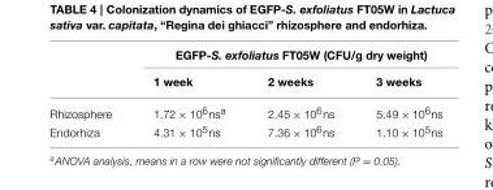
<table><thead><tr><td rowspan="2"></td><td colspan="3">EGFP-S. exfoliatus FT05W (CFU/g dry weight)</td></tr><tr><td>1 week</td><td>2 weeks</td><td>3 weeks</td></tr></thead><tbody><tr><td>Rhizosphere</td><td>1.72 × 10<sup>6</sup>ns<sup>a</sup></td><td>2.45 × 10<sup>6</sup>ns</td><td>5.49 × 10<sup>6</sup>ns</td></tr><tr><td>Endorhiza</td><td>4.31 × 10<sup>5</sup>ns</td><td>7.36 × 10<sup>6</sup>ns</td><td>1.10 × 10<sup>5</sup>ns</td></tr></tbody></table>